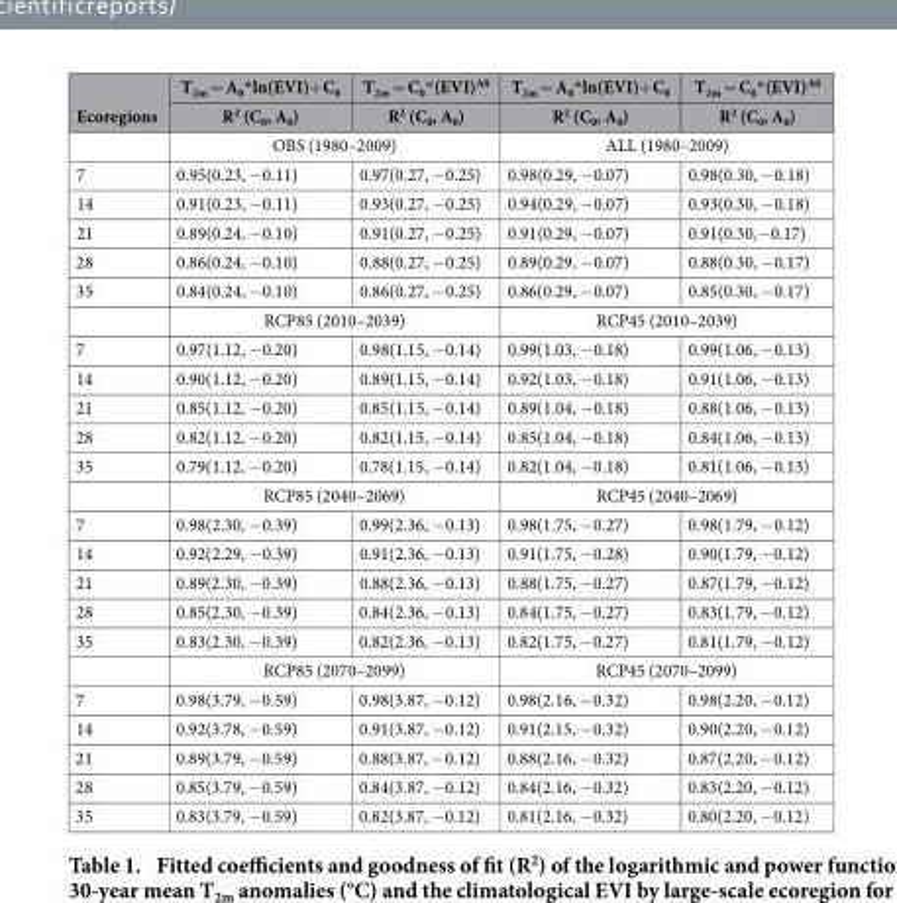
<table><thead><tr><td rowspan="2">Ecoregions</td><td rowspan="2">T<sub>2m</sub> = A<sub>0</sub>* ln(EVI)+ C<sub>0</sub> R<sup>2</sup> (C<sub>0</sub>, A<sub>0</sub>)</td><td rowspan="2">T<sub>2m</sub> = C<sub>0</sub>* (EVI)<sup>A0</sup> R<sup>2</sup> (C<sub>0</sub>, A<sub>0</sub>)</td><td rowspan="2">T<sub>2m</sub> = A<sub>0</sub>* ln(EVI)+ C<sub>0</sub> R<sup>2</sup> (C<sub>0</sub>, A<sub>0</sub>)</td><td rowspan="2">T<sub>2m</sub> = C<sub>0</sub>* (EVI)<sup>A0</sup> R<sup>2</sup> (C<sub>0</sub>, A<sub>0</sub>)</td></tr><tr></tr></thead><tbody><tr><td></td><td colspan="2">OBS (1980–2009)</td><td colspan="2">ALL (1980–2009)</td></tr><tr><td>7</td><td>0.95(0.23, − 0.11)</td><td>0.97(0.27, − 0.25)</td><td>0.98(0.29, − 0.07)</td><td>0.98(0.30, − 0.18)</td></tr><tr><td>14</td><td>0.91(0.23, − 0.11)</td><td>0.93(0.27, − 0.25)</td><td>0.94(0.29, − 0.07)</td><td>0.93(0.30, − 0.18)</td></tr><tr><td>21</td><td>0.89(0.24, − 0.10)</td><td>0.91(0.27, − 0.25)</td><td>0.91(0.29, − 0.07)</td><td>0.91(0.30,− 0.17)</td></tr><tr><td>28</td><td>0.86(0.24, − 0.10)</td><td>0.88(0.27, − 0.25)</td><td>0.89(0.29, − 0.07)</td><td>0.88(0.30, − 0.17)</td></tr><tr><td rowspan="2">35</td><td>0.84(0.24, − 0.10)</td><td>0.86(0.27, − 0.25)</td><td>0.86(0.29, − 0.07)</td><td>0.85(0.30, − 0.17)</td></tr><tr><td colspan="2">RCP85 (2010–2039)</td><td colspan="2">RCP45 (2010–2039)</td></tr><tr><td>7</td><td>0.97(1.12, − 0.20)</td><td>0.98(1.15, − 0.14)</td><td>0.99(1.03, − 0.18)</td><td>0.99(1.06, − 0.13)</td></tr><tr><td>14</td><td>0.90(1.12, − 0.20)</td><td>0.89(1.15, − 0.14)</td><td>0.92(1.03, − 0.18)</td><td>0.91(1.06, − 0.13)</td></tr><tr><td>21</td><td>0.85(1.12, − 0.20)</td><td>0.85(1.15, − 0.14)</td><td>0.89(1.04, − 0.18)</td><td>0.88(1.06, − 0.13)</td></tr><tr><td>28</td><td>0.82(1.12, − 0.20)</td><td>0.82(1.15, − 0.14)</td><td>0.85(1.04, − 0.18)</td><td>0.84(1.06, − 0.13)</td></tr><tr><td rowspan="2">35</td><td>0.79(1.12, − 0.20)</td><td>0.78(1.15, − 0.14)</td><td>0.82(1.04, − 0.18)</td><td>0.81(1.06, − 0.13)</td></tr><tr><td colspan="2">RCP85 (2040–2069)</td><td colspan="2">RCP45 (2040–2069)</td></tr><tr><td>7</td><td>0.98(2.30, − 0.39)</td><td>0.99(2.36, − 0.13)</td><td>0.98(1.75, − 0.27)</td><td>0.98(1.79, − 0.12)</td></tr><tr><td>14</td><td>0.92(2.29, − 0.39)</td><td>0.91(2.36, − 0.13)</td><td>0.91(1.75, − 0.28)</td><td>0.90(1.79, − 0.12)</td></tr><tr><td>21</td><td>0.89(2.30, − 0.39)</td><td>0.88(2.36, − 0.13)</td><td>0.88(1.75, − 0.27)</td><td>0.87(1.79, − 0.12)</td></tr><tr><td>28</td><td>0.85(2.30, − 0.39)</td><td>0.84(2.36, − 0.13)</td><td>0.84(1.75, − 0.27)</td><td>0.83(1.79, − 0.12)</td></tr><tr><td rowspan="2">35</td><td>0.83(2.30, − 0.39)</td><td>0.82(2.36, − 0.13)</td><td>0.82(1.75, − 0.27)</td><td>0.81(1.79, − 0.12)</td></tr><tr><td colspan="2">RCP85 (2070–2099)</td><td colspan="2">RCP45 (2070–2099)</td></tr><tr><td>7</td><td>0.98(3.79, − 0.59)</td><td>0.98(3.87, − 0.12)</td><td>0.98(2.16, − 0.32)</td><td>0.98(2.20, − 0.12)</td></tr><tr><td>14</td><td>0.92(3.78, − 0.59)</td><td>0.91(3.87, − 0.12)</td><td>0.91(2.15, − 0.32)</td><td>0.90(2.20, − 0.12)</td></tr><tr><td>21</td><td>0.89(3.79, − 0.59)</td><td>0.88(3.87, − 0.12)</td><td>0.88(2.16, − 0.32)</td><td>0.87(2.20, − 0.12)</td></tr><tr><td>28</td><td>0.85(3.79, − 0.59)</td><td>0.84(3.87, − 0.12)</td><td>0.84(2.16, − 0.32)</td><td>0.83(2.20, − 0.12)</td></tr><tr><td>35</td><td>0.83(3.79, − 0.59)</td><td>0.82(3.87, − 0.12)</td><td>0.81(2.16, − 0.32)</td><td>0.80(2.20, − 0.12)</td></tr></tbody></table>